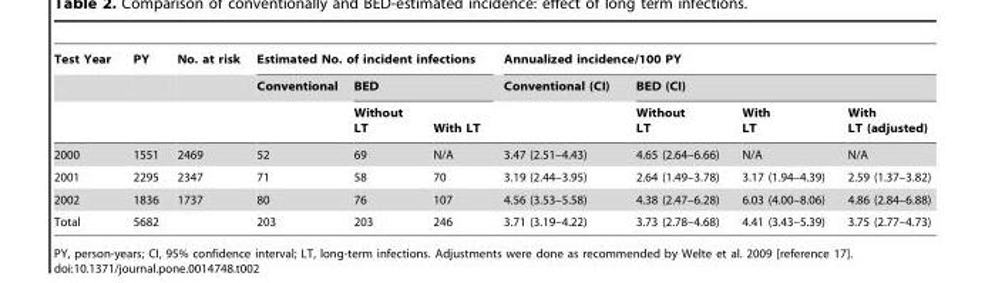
<table><thead><tr><td rowspan="3">Test Year</td><td rowspan="3">PY</td><td rowspan="3">No. at risk</td><td colspan="3">Estimated No. of incident infections</td><td colspan="4">Annualized incidence/100 PY</td></tr><tr><td rowspan="2">Conventional</td><td colspan="2">BED</td><td rowspan="2">Conventional (CI)</td><td colspan="3">BED (CI)</td></tr><tr><td>Without LT</td><td>With LT</td><td>Without LT</td><td>With LT</td><td>With LT (adjusted)</td></tr></thead><tbody><tr><td>2000</td><td>1551</td><td>2469</td><td>52</td><td>69</td><td>N/A</td><td>3.47 (2.51–4.43)</td><td>4.65 (2.64–6.66)</td><td>N/A</td><td>N/A</td></tr><tr><td>2001</td><td>2295</td><td>2347</td><td>71</td><td>58</td><td>70</td><td>3.19 (2.44–3.95)</td><td>2.64 (1.49–3.78)</td><td>3.17 (1.94–4.39)</td><td>2.59 (1.37–3.82)</td></tr><tr><td>2002</td><td>1836</td><td>1737</td><td>80</td><td>76</td><td>107</td><td>4.56 (3.53–5.58)</td><td>4.38 (2.47–6.28)</td><td>6.03 (4.00–8.06)</td><td>4.86 (2.84–6.88)</td></tr><tr><td>Total</td><td>5682</td><td></td><td>203</td><td>203</td><td>246</td><td>3.71 (3.19–4.22)</td><td>3.73 (2.78–4.68)</td><td>4.41 (3.43–5.39)</td><td>3.75 (2.77–4.73)</td></tr></tbody></table>